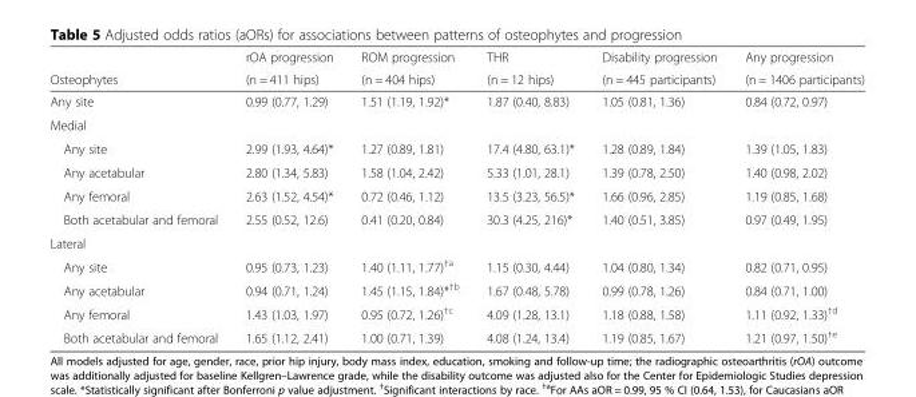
<table><thead><tr><td rowspan="2">Osteophytes</td><td rowspan="2">rOA progression (n = 411 hips)</td><td rowspan="2">ROM progression (n = 404 hips)</td><td rowspan="2">THR (n = 12 hips)</td><td rowspan="2">Disability progression (n = 445 participants)</td><td rowspan="2">Any progression (n = 1406 participants)</td></tr><tr></tr></thead><tbody><tr><td>Any site</td><td>0.99 (0.77, 1.29)</td><td>1.51 (1.19, 1.92)*</td><td>1.87 (0.40, 8.83)</td><td>1.05 (0.81, 1.36)</td><td>0.84 (0.72, 0.97)</td></tr><tr><td colspan="6">Medial</td></tr><tr><td>Any site</td><td>2.99 (1.93, 4.64)*</td><td>1.27 (0.89, 1.81)</td><td>17.4 (4.80, 63.1)*</td><td>1.28 (0.89, 1.84)</td><td>1.39 (1.05, 1.83)</td></tr><tr><td>Any acetabular</td><td>2.80 (1.34, 5.83)</td><td>1.58 (1.04, 2.42)</td><td>5.33 (1.01, 28.1)</td><td>1.39 (0.78, 2.50)</td><td>1.40 (0.98, 2.02)</td></tr><tr><td>Any femoral</td><td>2.63 (1.52, 4.54)*</td><td>0.72 (0.46, 1.12)</td><td>13.5 (3.23, 56.5)*</td><td>1.66 (0.96, 2.85)</td><td>1.19 (0.85, 1.68)</td></tr><tr><td>Both acetabular and femoral</td><td>2.55 (0.52, 12.6)</td><td>0.41 (0.20, 0.84)</td><td>30.3 (4.25, 216)*</td><td>1.40 (0.51, 3.85)</td><td>0.97 (0.49, 1.95)</td></tr><tr><td colspan="6">Lateral</td></tr><tr><td>Any site</td><td>0.95 (0.73, 1.23)</td><td>1.40 (1.11, 1.77)<sup>†a</sup></td><td>1.15 (0.30, 4.44)</td><td>1.04 (0.80, 1.34)</td><td>0.82 (0.71, 0.95)</td></tr><tr><td>Any acetabular</td><td>0.94 (0.71, 1.24)</td><td>1.45 (1.15, 1.84)*<sup>†b</sup></td><td>1.67 (0.48, 5.78)</td><td>0.99 (0.78, 1.26)</td><td>0.84 (0.71, 1.00)</td></tr><tr><td>Any femoral</td><td>1.43 (1.03, 1.97)</td><td>0.95 (0.72, 1.26)<sup>†c</sup></td><td>4.09 (1.28, 13.1)</td><td>1.18 (0.88, 1.58)</td><td>1.11 (0.92, 1.33)<sup>†d</sup></td></tr><tr><td>Both acetabular and femoral</td><td>1.65 (1.12, 2.41)</td><td>1.00 (0.71, 1.39)</td><td>4.08 (1.24, 13.4)</td><td>1.19 (0.85, 1.67)</td><td>1.21 (0.97, 1.50)<sup>†e</sup></td></tr></tbody></table>